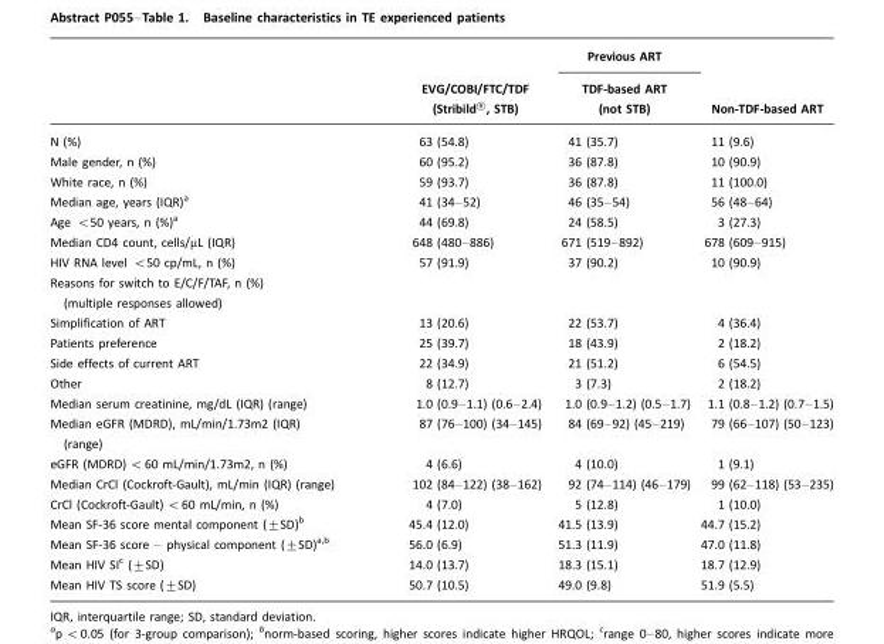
<table><thead><tr><td rowspan="2"></td><td rowspan="2">EVG/COBI/FTC/TDF (Stribild†, STB)</td><td rowspan="2">Previous ART TDF-based ART (not STB)</td><td rowspan="2">Non-TDF-based ART</td></tr><tr></tr></thead><tbody><tr><td>N (%)</td><td>63 (54.8)</td><td>41 (35.7)</td><td>11 (9.6)</td></tr><tr><td>Male gender, n (%)</td><td>60 (95.2)</td><td>36 (87.8)</td><td>10 (90.9)</td></tr><tr><td>White race, n (%)</td><td>59 (93.7)</td><td>36 (87.8)</td><td>11 (100.0)</td></tr><tr><td>Median age, years (IQR)a</td><td>41 (34–52)</td><td>46 (35–54)</td><td>56 (48–64)</td></tr><tr><td>Age &lt;50 years, n (%)a</td><td>44 (69.8)</td><td>24 (58.5)</td><td>3 (27.3)</td></tr><tr><td>Median CD4 count, cells/µL (IQR)</td><td>648 (480–886)</td><td>671 (519–892)</td><td>678 (609–915)</td></tr><tr><td>HIV RNA level &lt;50 cp/mL, n (%)</td><td>57 (91.9)</td><td>37 (90.2)</td><td>10 (90.9)</td></tr><tr><td colspan="4">Reasons for switch to E/C/F/TAF, n (%) (multiple responses allowed)</td></tr><tr><td>Simplification of ART</td><td>13 (20.6)</td><td>22 (53.7)</td><td>4 (36.4)</td></tr><tr><td>Patients preference</td><td>25 (39.7)</td><td>18 (43.9)</td><td>2 (18.2)</td></tr><tr><td>Side effects of current ART</td><td>22 (34.9)</td><td>21 (51.2)</td><td>6 (54.5)</td></tr><tr><td>Other</td><td>8 (12.7)</td><td>3 (7.3)</td><td>2 (18.2)</td></tr><tr><td>Median serum creatinine, mg/dL (IQR) (range)</td><td>1.0 (0.9–1.1) (0.6–2.4)</td><td>1.0 (0.9–1.2) (0.5–1.7)</td><td>1.1 (0.8–1.2) (0.7–1.5)</td></tr><tr><td>Median eGFR (MDRD), mL/min/1.73m2 (IQR) (range)</td><td>87 (76–100) (34–145)</td><td>84 (69–92) (45–219)</td><td>79 (66–107) (50–123)</td></tr><tr><td>eGFR (MDRD) &lt;60 mL/min/1.73m2, n (%)</td><td>4 (6.6)</td><td>4 (10.0)</td><td>1 (9.1)</td></tr><tr><td>Median CrCl (Cockroft-Gault), mL/min (IQR) (range)</td><td>102 (84–122) (38–162)</td><td>92 (74–114) (46–179)</td><td>99 (62–118) (53–235)</td></tr><tr><td>CrCl (Cockroft-Gault) &lt;60 mL/min, n (%)</td><td>4 (7.0)</td><td>5 (12.8)</td><td>1 (10.0)</td></tr><tr><td>Mean SF-36 score mental component (±SD)b</td><td>45.4 (12.0)</td><td>41.5 (13.9)</td><td>44.7 (15.2)</td></tr><tr><td>Mean SF-36 score – physical component (±SD)a,b</td><td>56.0 (6.9)</td><td>51.3 (11.9)</td><td>47.0 (11.8)</td></tr><tr><td>Mean HIV SIc (±SD)</td><td>14.0 (13.7)</td><td>18.3 (15.1)</td><td>18.7 (12.9)</td></tr><tr><td>Mean HIV TS score (±SD)</td><td>50.7 (10.5)</td><td>49.0 (9.8)</td><td>51.9 (5.5)</td></tr></tbody></table>